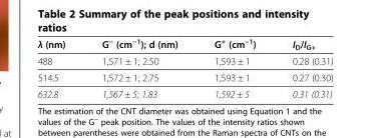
<table><thead><tr><td>λ (nm)</td><td>G<sup>−</sup> (cm<sup>−1</sup>); d (nm)</td><td>G<sup>+</sup> (cm<sup>−1</sup>)</td><td>I<sub>D</sub>/I<sub>G+</sub></td></tr></thead><tbody><tr><td>488</td><td>1,571 ± 1; 2.50</td><td>1,593 ± 1</td><td>0.28 (0.31)</td></tr><tr><td>514.5</td><td>1,572 ± 1; 2.75</td><td>1,593 ± 1</td><td>0.27 (0.30)</td></tr><tr><td>632.8</td><td>1,567 ± 5; 1.83</td><td>1,592 ± 5</td><td>0.31 (0.31)</td></tr></tbody></table>